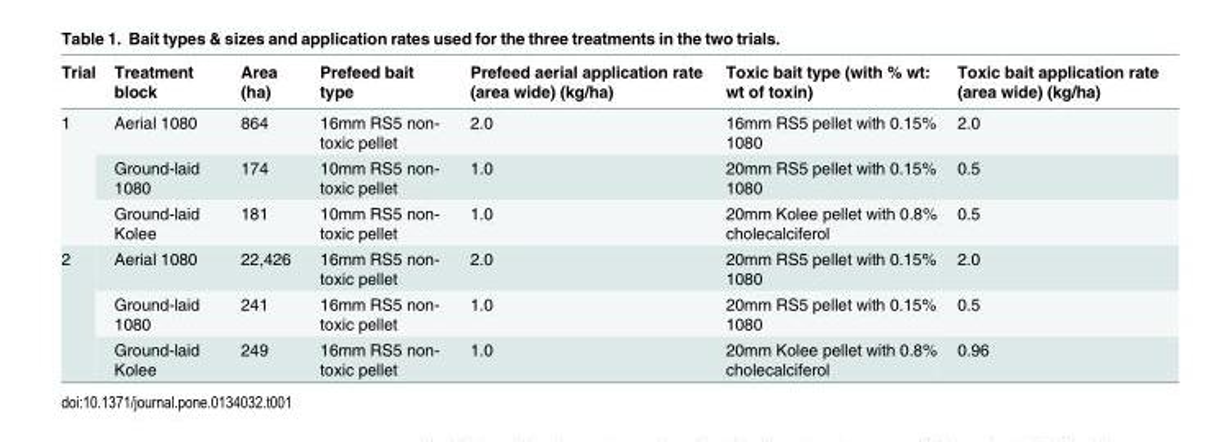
<table><thead><tr><td>Trial</td><td>Treatment block</td><td>Area (ha)</td><td>Prefeed bait type</td><td>Prefeed aerial application rate (area wide) (kg/ha)</td><td>Toxic bait type (with % wt: wt of toxin)</td><td>Toxic bait application rate (area wide) (kg/ha)</td></tr></thead><tbody><tr><td rowspan="3">1</td><td>Aerial 1080</td><td>864</td><td>16mm RS5 non- toxic pellet</td><td>2.0</td><td>16mm RS5 pellet with 0.15% 1080</td><td>2.0</td></tr><tr><td>Ground-laid 1080</td><td>174</td><td>10mm RS5 non- toxic pellet</td><td>1.0</td><td>20mm RS5 pellet with 0.15% 1080</td><td>0.5</td></tr><tr><td>Ground-laid Kolee</td><td>181</td><td>10mm RS5 non- toxic pellet</td><td>1.0</td><td>20mm Kolee pellet with 0.8% cholecalciferol</td><td>0.5</td></tr><tr><td rowspan="3">2</td><td>Aerial 1080</td><td>22,426</td><td>16mm RS5 non- toxic pellet</td><td>2.0</td><td>20mm RS5 pellet with 0.15% 1080</td><td>2.0</td></tr><tr><td>Ground-laid 1080</td><td>241</td><td>16mm RS5 non- toxic pellet</td><td>1.0</td><td>20mm RS5 pellet with 0.15% 1080</td><td>0.5</td></tr><tr><td>Ground-laid Kolee</td><td>249</td><td>16mm RS5 non- toxic pellet</td><td>1.0</td><td>20mm Kolee pellet with 0.8% cholecalciferol</td><td>0.96</td></tr></tbody></table>